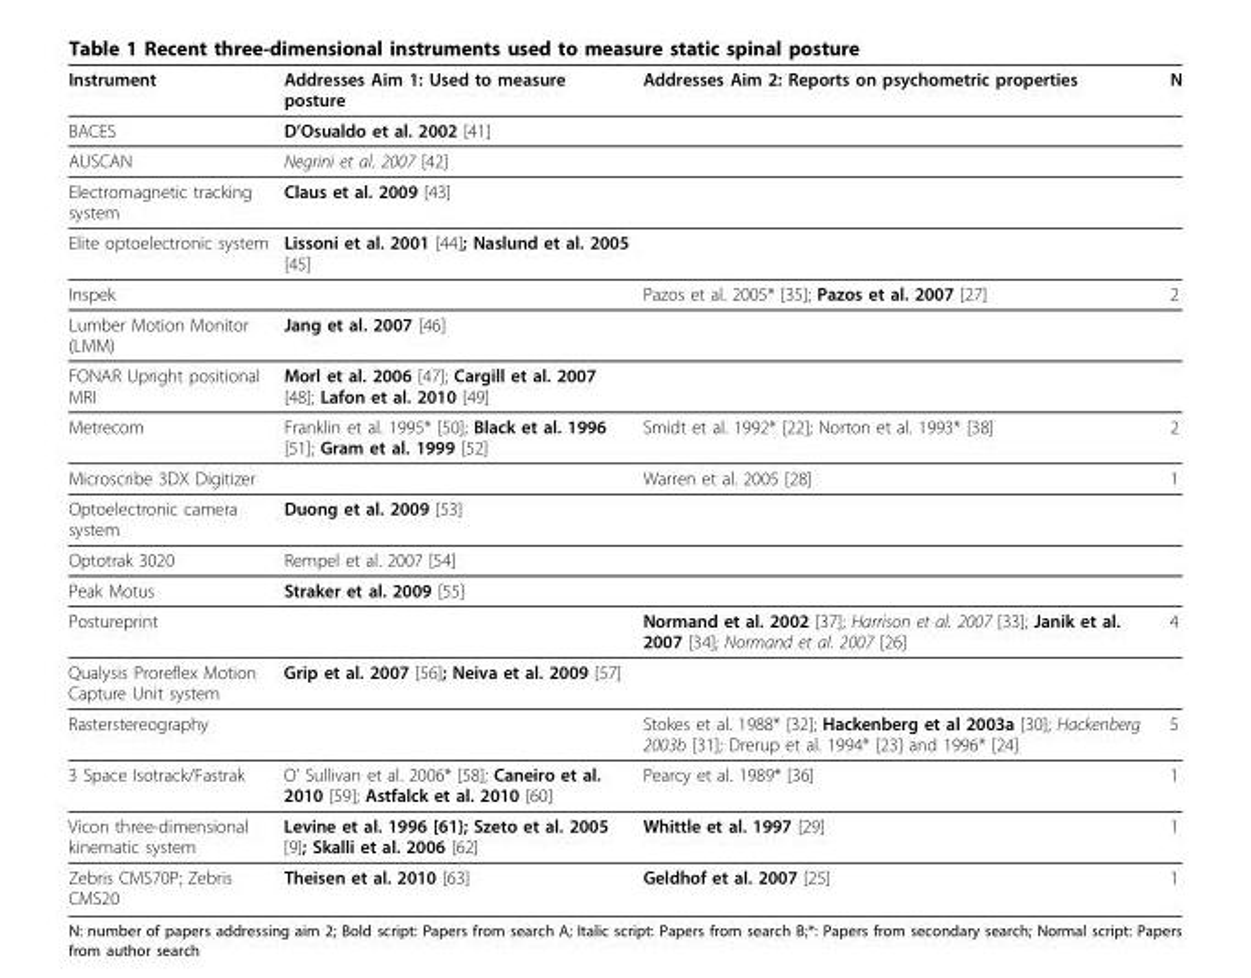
<table><thead><tr><td>Instrument</td><td>Addresses Aim 1: Used to measure posture</td><td>Addresses Aim 2: Reports on psychometric properties</td><td>N</td></tr></thead><tbody><tr><td>BACES</td><td>D’Osualdo et al. 2002 [41]</td><td></td><td></td></tr><tr><td>AUSCAN</td><td>Negrini et al. 2007 [42]</td><td></td><td></td></tr><tr><td>Electromagnetic tracking system</td><td>Claus et al. 2009 [43]</td><td></td><td></td></tr><tr><td>Elite optoelectronic system</td><td>Lissoni et al. 2001 [44]; Naslund et al. 2005 [45]</td><td></td><td></td></tr><tr><td>Inspek</td><td></td><td>Pazos et al. 2005* [35]; Pazos et al. 2007 [27]</td><td>2</td></tr><tr><td>Lumber Motion Monitor (LMM)</td><td>Jang et al. 2007 [46]</td><td></td><td></td></tr><tr><td>FONAR Upright positional MRI</td><td>Morl et al. 2006 [47]; Cargill et al. 2007 [48]; Lafon et al. 2010 [49]</td><td></td><td></td></tr><tr><td>Metrecom</td><td>Franklin et al. 1995* [50]; Black et al. 1996 [51]; Gram et al. 1999 [52]</td><td>Smidt et al. 1992* [22]; Norton et al. 1993* [38]</td><td>2</td></tr><tr><td>Microscribe 3DX Digitizer</td><td></td><td>Warren et al. 2005 [28]</td><td>1</td></tr><tr><td>Optoelectronic camera system</td><td>Duong et al. 2009 [53]</td><td></td><td></td></tr><tr><td>Optotrak 3020</td><td>Rempel et al. 2007 [54]</td><td></td><td></td></tr><tr><td>Peak Motus</td><td>Straker et al. 2009 [55]</td><td></td><td></td></tr><tr><td>Postureprint</td><td></td><td>Normand et al. 2002 [37]; Harrison et al. 2007 [33]; Janik et al. 2007 [34]; Normand et al. 2007 [26]</td><td>4</td></tr><tr><td>Qualysis Proreflex Motion Capture Unit system</td><td>Grip et al. 2007 [56]; Neiva et al. 2009 [57]</td><td></td><td></td></tr><tr><td>Rasterstereography</td><td></td><td>Stokes et al. 1988* [32]; Hackenberg et al 2003a [30]; Hackenberg 2003b [31]; Drerup et al. 1994* [23] and 1996* [24]</td><td>5</td></tr><tr><td>3 Space Isotrack/Fastrak</td><td>O’ Sullivan et al. 2006* [58]; Caneiro et al. 2010 [59]; Astfalck et al. 2010 [60]</td><td>Pearcy et al. 1989* [36]</td><td>1</td></tr><tr><td>Vicon three-dimensional kinematic system</td><td>Levine et al. 1996 [61}; Szeto et al. 2005 [9]; Skalli et al. 2006 [62]</td><td>Whittle et al. 1997 [29]</td><td>1</td></tr><tr><td>Zebris CMS70P; Zebris CMS20</td><td>Theisen et al. 2010 [63]</td><td>Geldhof et al. 2007 [25]</td><td>1</td></tr></tbody></table>